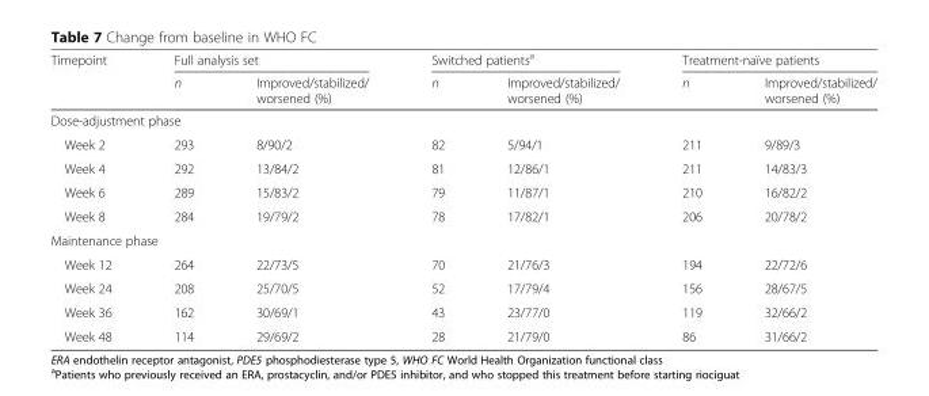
<table><thead><tr><td rowspan="2">Timepoint</td><td colspan="2">Full analysis set</td><td colspan="2">Switched patients<sup>a</sup></td><td colspan="2">Treatment-naïve patients</td></tr><tr><td>n</td><td>Improved/stabilized/ worsened (%)</td><td>n</td><td>Improved/stabilized/ worsened (%)</td><td>n</td><td>Improved/stabilized/ worsened (%)</td></tr></thead><tbody><tr><td colspan="7">Dose-adjustment phase</td></tr><tr><td>Week 2</td><td>293</td><td>8/90/2</td><td>82</td><td>5/94/1</td><td>211</td><td>9/89/3</td></tr><tr><td>Week 4</td><td>292</td><td>13/84/2</td><td>81</td><td>12/86/1</td><td>211</td><td>14/83/3</td></tr><tr><td>Week 6</td><td>289</td><td>15/83/2</td><td>79</td><td>11/87/1</td><td>210</td><td>16/82/2</td></tr><tr><td>Week 8</td><td>284</td><td>19/79/2</td><td>78</td><td>17/82/1</td><td>206</td><td>20/78/2</td></tr><tr><td colspan="7">Maintenance phase</td></tr><tr><td>Week 12</td><td>264</td><td>22/73/5</td><td>70</td><td>21/76/3</td><td>194</td><td>22/72/6</td></tr><tr><td>Week 24</td><td>208</td><td>25/70/5</td><td>52</td><td>17/79/4</td><td>156</td><td>28/67/5</td></tr><tr><td>Week 36</td><td>162</td><td>30/69/1</td><td>43</td><td>23/77/0</td><td>119</td><td>32/66/2</td></tr><tr><td>Week 48</td><td>114</td><td>29/69/2</td><td>28</td><td>21/79/0</td><td>86</td><td>31/66/2</td></tr></tbody></table>